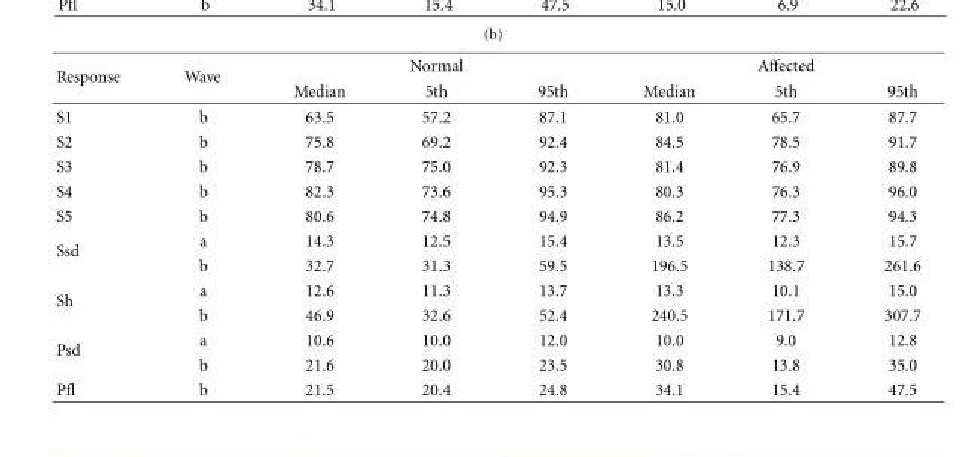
<table><tbody><tr><td rowspan="2">Response</td><td rowspan="2">Wave</td><td colspan="3">Normal</td><td colspan="3">Affected</td></tr><tr><td>Median</td><td>5th</td><td>95th</td><td>Median</td><td>5th</td><td>95th</td></tr><tr><td>S1</td><td>b</td><td>63.5</td><td>57.2</td><td>87.1</td><td>81.0</td><td>65.7</td><td>87.7</td></tr><tr><td>S2</td><td>b</td><td>75.8</td><td>69.2</td><td>92.4</td><td>84.5</td><td>78.5</td><td>91.7</td></tr><tr><td>S3</td><td>b</td><td>78.7</td><td>75.0</td><td>92.3</td><td>81.4</td><td>76.9</td><td>89.8</td></tr><tr><td>S4</td><td>b</td><td>82.3</td><td>73.6</td><td>95.3</td><td>80.3</td><td>76.3</td><td>96.0</td></tr><tr><td>S5</td><td>b</td><td>80.6</td><td>74.8</td><td>94.9</td><td>86.2</td><td>77.3</td><td>94.3</td></tr><tr><td rowspan="2">Ssd</td><td>a</td><td>14.3</td><td>12.5</td><td>15.4</td><td>13.5</td><td>12.3</td><td>15.7</td></tr><tr><td>b</td><td>32.7</td><td>31.3</td><td>59.5</td><td>196.5</td><td>138.7</td><td>261.6</td></tr><tr><td rowspan="2">Sh</td><td>a</td><td>12.6</td><td>11.3</td><td>13.7</td><td>13.3</td><td>10.1</td><td>15.0</td></tr><tr><td>b</td><td>46.9</td><td>32.6</td><td>52.4</td><td>240.5</td><td>171.7</td><td>307.7</td></tr><tr><td rowspan="2">Psd</td><td>a</td><td>10.6</td><td>10.0</td><td>12.0</td><td>10.0</td><td>9.0</td><td>12.8</td></tr><tr><td>b</td><td>21.6</td><td>20.0</td><td>23.5</td><td>30.8</td><td>13.8</td><td>35.0</td></tr><tr><td>Pfl</td><td>b</td><td>21.5</td><td>20.4</td><td>24.8</td><td>34.1</td><td>15.4</td><td>47.5</td></tr></tbody></table>